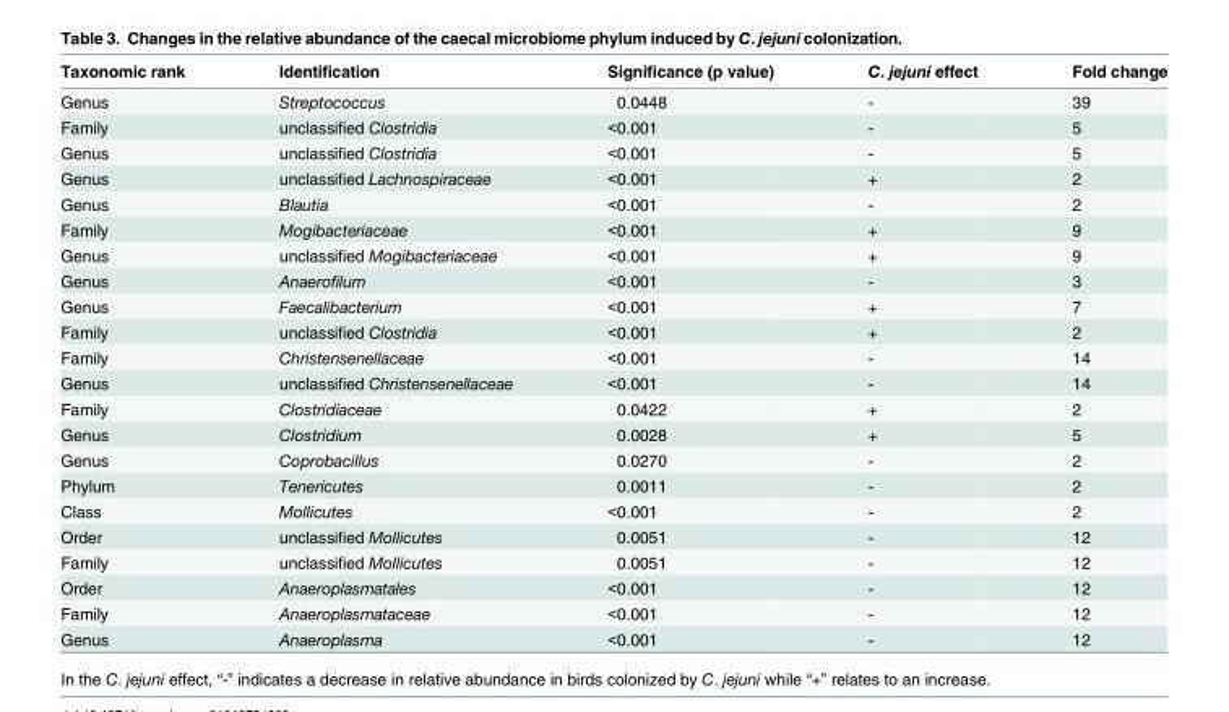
<table><thead><tr><td>Taxonomic rank</td><td>Identification</td><td>Significance (p value)</td><td>C. jejuni effect</td><td>Fold change</td></tr></thead><tbody><tr><td>Genus</td><td>Streptococcus</td><td>0.0448</td><td>-</td><td>39</td></tr><tr><td>Family</td><td>unclassified Clostridia</td><td>&lt;0.001</td><td>-</td><td>5</td></tr><tr><td>Genus</td><td>unclassified Clostridia</td><td>&lt;0.001</td><td>-</td><td>5</td></tr><tr><td>Genus</td><td>unclassified Lachnospiraceae</td><td>&lt;0.001</td><td>+</td><td>2</td></tr><tr><td>Genus</td><td>Blautia</td><td>&lt;0.001</td><td>-</td><td>2</td></tr><tr><td>Family</td><td>Mogibacteriaceae</td><td>&lt;0.001</td><td>+</td><td>9</td></tr><tr><td>Genus</td><td>unclassified Mogibacteriaceae</td><td>&lt;0.001</td><td>+</td><td>9</td></tr><tr><td>Genus</td><td>Anaerofilum</td><td>&lt;0.001</td><td>-</td><td>3</td></tr><tr><td>Genus</td><td>Faecalibacterium</td><td>&lt;0.001</td><td>+</td><td>7</td></tr><tr><td>Family</td><td>unclassified Clostridia</td><td>&lt;0.001</td><td>+</td><td>2</td></tr><tr><td>Family</td><td>Christensenellaceae</td><td>&lt;0.001</td><td>-</td><td>14</td></tr><tr><td>Genus</td><td>unclassified Christensenellaceae</td><td>&lt;0.001</td><td>-</td><td>14</td></tr><tr><td>Family</td><td>Clostridiaceae</td><td>0.0422</td><td>+</td><td>2</td></tr><tr><td>Genus</td><td>Clostridium</td><td>0.0028</td><td>+</td><td>5</td></tr><tr><td>Genus</td><td>Coprobacillus</td><td>0.0270</td><td>-</td><td>2</td></tr><tr><td>Phylum</td><td>Tenericutes</td><td>0.0011</td><td>-</td><td>2</td></tr><tr><td>Class</td><td>Mollicutes</td><td>&lt;0.001</td><td>-</td><td>2</td></tr><tr><td>Order</td><td>unclassified Mollicutes</td><td>0.0051</td><td>-</td><td>12</td></tr><tr><td>Family</td><td>unclassified Mollicutes</td><td>0.0051</td><td>-</td><td>12</td></tr><tr><td>Order</td><td>Anaeroplasmatales</td><td>&lt;0.001</td><td>-</td><td>12</td></tr><tr><td>Family</td><td>Anaeroplasmataceae</td><td>&lt;0.001</td><td>-</td><td>12</td></tr><tr><td>Genus</td><td>Anaeroplasma</td><td>&lt;0.001</td><td>-</td><td>12</td></tr></tbody></table>